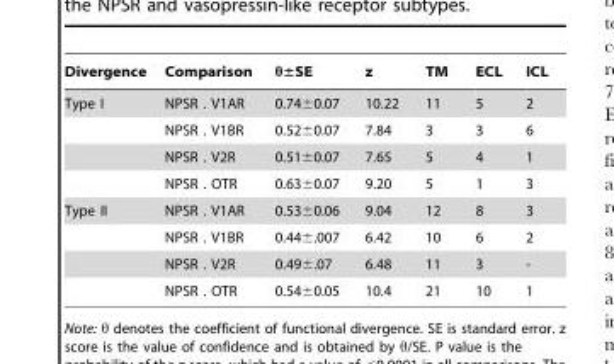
<table><thead><tr><td>Divergence</td><td>Comparison</td><td>θ±SE</td><td>z</td><td>TM</td><td>ECL</td><td>ICL</td></tr></thead><tbody><tr><td rowspan="4">Type I</td><td>NPSR . V1AR</td><td>0.74±0.07</td><td>10.22</td><td>11</td><td>5</td><td>2</td></tr><tr><td>NPSR . V1BR</td><td>0.52±0.07</td><td>7.84</td><td>3</td><td>3</td><td>6</td></tr><tr><td>NPSR . V2R</td><td>0.51±0.07</td><td>7.65</td><td>5</td><td>4</td><td>1</td></tr><tr><td>NPSR . OTR</td><td>0.63±0.07</td><td>9.20</td><td>5</td><td>1</td><td>3</td></tr><tr><td rowspan="4">Type II</td><td>NPSR . V1AR</td><td>0.53±0.06</td><td>9.04</td><td>12</td><td>8</td><td>3</td></tr><tr><td>NPSR . V1BR</td><td>0.44±.007</td><td>6.42</td><td>10</td><td>6</td><td>2</td></tr><tr><td>NPSR . V2R</td><td>0.49±.07</td><td>6.48</td><td>11</td><td>3</td><td>-</td></tr><tr><td>NPSR . OTR</td><td>0.54±0.05</td><td>10.4</td><td>21</td><td>10</td><td>1</td></tr></tbody></table>